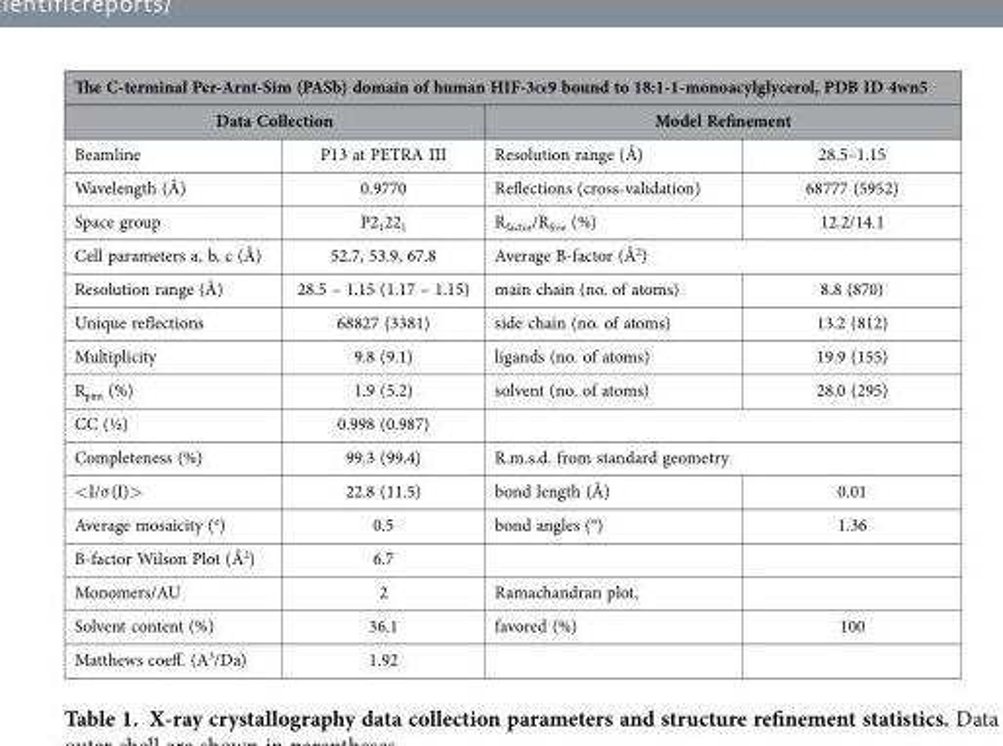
<table><thead><tr><td colspan="4">The C-terminal Per-Arnt-Sim (PASb) domain of human HIF-3α9 bound to 18:1-1-monoacylglycerol, PDB ID 4wn5</td></tr><tr><td colspan="2">Data Collection</td><td colspan="2">Model Refinement</td></tr><tr><td>Beamline</td><td>P13 at PETRA III</td><td>Resolution range (Å)</td><td>28.5–1.15</td></tr></thead><tbody><tr><td>Wavelength (Å)</td><td>0.9770</td><td>Reflections (cross-validation)</td><td>68777 (5952)</td></tr><tr><td>Space group</td><td>P2<sub>1</sub>22<sub>1</sub></td><td>R<sub>factor</sub>/R<sub>free</sub> (%)</td><td>12.2/14.1</td></tr><tr><td>Cell parameters a, b, c (Å)</td><td>52.7, 53.9, 67.8</td><td colspan="2">Average B-factor (Å<sup>2</sup>)</td></tr><tr><td>Resolution range (Å)</td><td>28.5 – 1.15 (1.17 – 1.15)</td><td>main chain (no. of atoms)</td><td>8.8 (870)</td></tr><tr><td>Unique reflections</td><td>68827 (3381)</td><td>side chain (no. of atoms)</td><td>13.2 (812)</td></tr><tr><td>Multiplicity</td><td>9.8 (9.1)</td><td>ligands (no. of atoms)</td><td>19.9 (155)</td></tr><tr><td>R<sub>pim</sub> (%)</td><td>1.9 (5.2)</td><td>solvent (no. of atoms)</td><td>28.0 (295)</td></tr><tr><td>CC (½)</td><td>0.998 (0.987)</td><td colspan="2"></td></tr><tr><td>Completeness (%)</td><td>99.3 (99.4)</td><td colspan="2">R.m.s.d. from standard geometry</td></tr><tr><td>&lt; I/σ (I)&gt;</td><td>22.8 (11.5)</td><td>bond length (Å)</td><td>0.01</td></tr><tr><td>Average mosaicity (<sup>o</sup>)</td><td>0.5</td><td>bond angles (°)</td><td>1.36</td></tr><tr><td>B-factor Wilson Plot (Å<sup>2</sup>)</td><td>6.7</td><td></td><td></td></tr><tr><td>Monomers/AU</td><td>2</td><td>Ramachandran plot,</td><td></td></tr><tr><td>Solvent content (%)</td><td>36.1</td><td>favored (%)</td><td>100</td></tr><tr><td>Matthews coeff. (A<sup>3</sup>/Da)</td><td>1.92</td><td></td><td></td></tr></tbody></table>